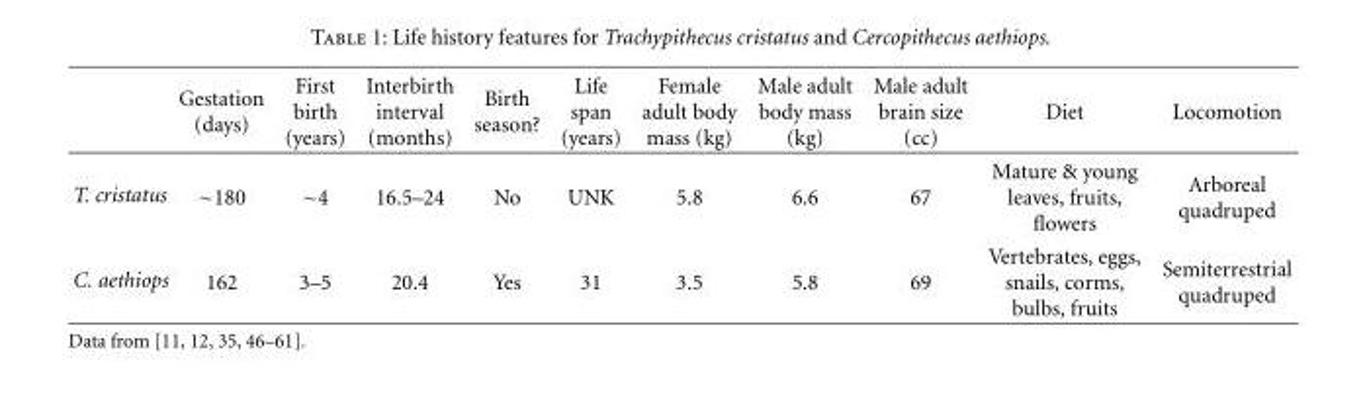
<table><thead><tr><td></td><td>Gestation (days)</td><td>First birth (years)</td><td>Interbirth interval (months)</td><td>Birth season?</td><td>Life span (years)</td><td>Female adult body mass (kg)</td><td>Male adult body mass (kg)</td><td>Male adult brain size (cc)</td><td>Diet</td><td>Locomotion</td></tr></thead><tbody><tr><td>T. cristatus</td><td>∼180</td><td>∼4</td><td>16.5–24</td><td>No</td><td>UNK</td><td>5.8</td><td>6.6</td><td>67</td><td>Mature &amp; young leaves, fruits, flowers</td><td>Arboreal quadruped</td></tr><tr><td>C. aethiops</td><td>162</td><td>3–5</td><td>20.4</td><td>Yes</td><td>31</td><td>3.5</td><td>5.8</td><td>69</td><td>Vertebrates, eggs, snails, corms, bulbs, fruits</td><td>Semiterrestrial quadruped</td></tr></tbody></table>